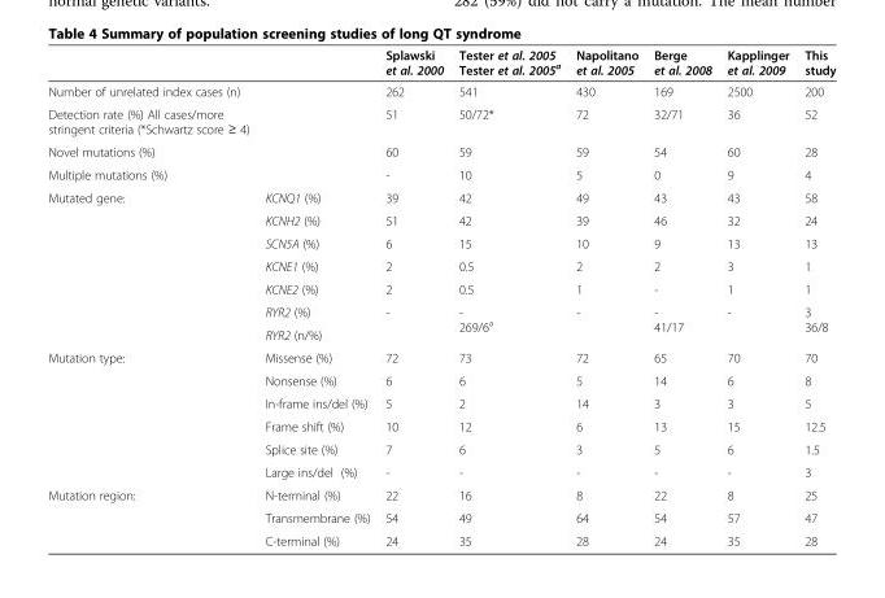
<table><thead><tr><td></td><td></td><td>Splawski et al. 2000</td><td>Tester et al. 2005 Tester et al. 2005<sup>a</sup></td><td>Napolitano et al. 2005</td><td>Berge et al. 2008</td><td>Kapplinger et al. 2009</td><td>This study</td></tr></thead><tbody><tr><td>Number of unrelated index cases (n)</td><td></td><td>262</td><td>541</td><td>430</td><td>169</td><td>2500</td><td>200</td></tr><tr><td>Detection rate (%) All cases/more stringent criteria (*Schwartz score ≥ 4)</td><td></td><td>51</td><td>50/72*</td><td>72</td><td>32/71</td><td>36</td><td>52</td></tr><tr><td>Novel mutations (%)</td><td></td><td>60</td><td>59</td><td>59</td><td>54</td><td>60</td><td>28</td></tr><tr><td>Multiple mutations (%)</td><td></td><td>-</td><td>10</td><td>5</td><td>0</td><td>9</td><td>4</td></tr><tr><td rowspan="7">Mutated gene:</td><td>KCNQ1 (%)</td><td>39</td><td>42</td><td>49</td><td>43</td><td>43</td><td>58</td></tr><tr><td>KCNH2 (%)</td><td>51</td><td>42</td><td>39</td><td>46</td><td>32</td><td>24</td></tr><tr><td>SCN5A (%)</td><td>6</td><td>15</td><td>10</td><td>9</td><td>13</td><td>13</td></tr><tr><td>KCNE1 (%)</td><td>2</td><td>0.5</td><td>2</td><td>2</td><td>3</td><td>1</td></tr><tr><td>KCNE2 (%)</td><td>2</td><td>0.5</td><td>1</td><td>-</td><td>1</td><td>1</td></tr><tr><td>RYR2 (%)</td><td rowspan="2">-</td><td rowspan="2">- 269/6<sup>a</sup></td><td rowspan="2">-</td><td rowspan="2">- 41/17</td><td rowspan="2">-</td><td rowspan="2">3 36/8</td></tr><tr><td>RYR2 (n/%)</td></tr><tr><td rowspan="6">Mutation type:</td><td>Missense (%)</td><td>72</td><td>73</td><td>72</td><td>65</td><td>70</td><td>70</td></tr><tr><td>Nonsense (%)</td><td>6</td><td>6</td><td>5</td><td>14</td><td>6</td><td>8</td></tr><tr><td>In-frame ins/del (%)</td><td>5</td><td>2</td><td>14</td><td>3</td><td>3</td><td>5</td></tr><tr><td>Frame shift (%)</td><td>10</td><td>12</td><td>6</td><td>13</td><td>15</td><td>12.5</td></tr><tr><td>Splice site (%)</td><td>7</td><td>6</td><td>3</td><td>5</td><td>6</td><td>1.5</td></tr><tr><td>Large ins/del (%)</td><td>-</td><td>-</td><td>-</td><td>-</td><td>-</td><td>3</td></tr><tr><td rowspan="3">Mutation region:</td><td>N-terminal (%)</td><td>22</td><td>16</td><td>8</td><td>22</td><td>8</td><td>25</td></tr><tr><td>Transmembrane (%)</td><td>54</td><td>49</td><td>64</td><td>54</td><td>57</td><td>47</td></tr><tr><td>C-terminal (%)</td><td>24</td><td>35</td><td>28</td><td>24</td><td>35</td><td>28</td></tr></tbody></table>